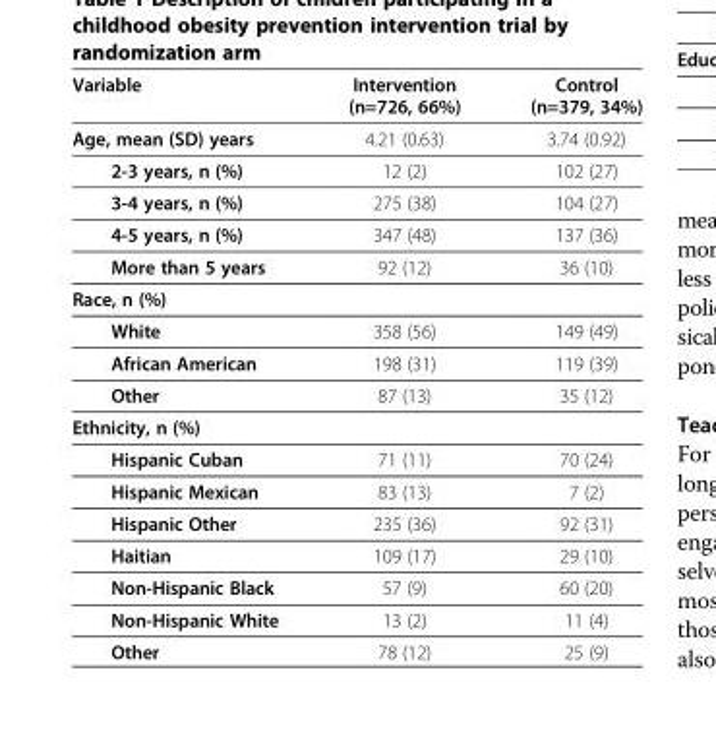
<table><thead><tr><td>Variable</td><td>Intervention (n=726, 66%)</td><td>Control (n=379, 34%)</td></tr></thead><tbody><tr><td>Age, mean (SD) years</td><td>4.21 (0.63)</td><td>3.74 (0.92)</td></tr><tr><td>2-3 years, n (%)</td><td>12 (2)</td><td>102 (27)</td></tr><tr><td>3-4 years, n (%)</td><td>275 (38)</td><td>104 (27)</td></tr><tr><td>4-5 years, n (%)</td><td>347 (48)</td><td>137 (36)</td></tr><tr><td>More than 5 years</td><td>92 (12)</td><td>36 (10)</td></tr><tr><td colspan="3">Race, n (%)</td></tr><tr><td>White</td><td>358 (56)</td><td>149 (49)</td></tr><tr><td>African American</td><td>198 (31)</td><td>119 (39)</td></tr><tr><td>Other</td><td>87 (13)</td><td>35 (12)</td></tr><tr><td colspan="3">Ethnicity, n (%)</td></tr><tr><td>Hispanic Cuban</td><td>71 (11)</td><td>70 (24)</td></tr><tr><td>Hispanic Mexican</td><td>83 (13)</td><td>7 (2)</td></tr><tr><td>Hispanic Other</td><td>235 (36)</td><td>92 (31)</td></tr><tr><td>Haitian</td><td>109 (17)</td><td>29 (10)</td></tr><tr><td>Non-Hispanic Black</td><td>57 (9)</td><td>60 (20)</td></tr><tr><td>Non-Hispanic White</td><td>13 (2)</td><td>11 (4)</td></tr><tr><td>Other</td><td>78 (12)</td><td>25 (9)</td></tr></tbody></table>